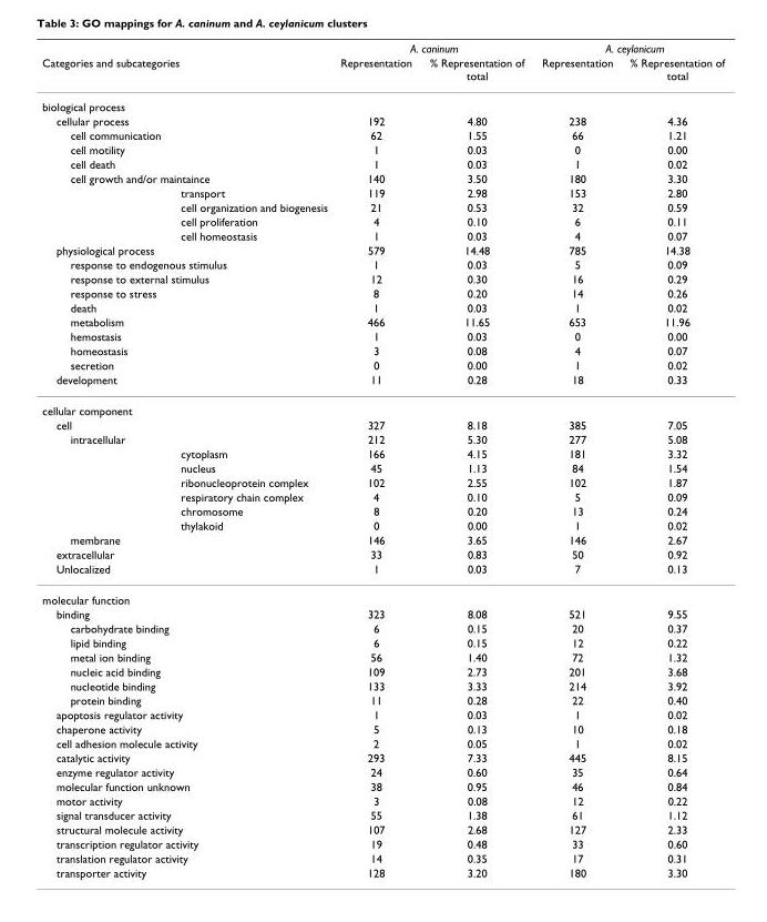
<table><thead><tr><td></td><td></td><td colspan="2">A. caninum</td><td colspan="2">A. ceylanicum</td></tr><tr><td colspan="2">Categories and subcategories</td><td>Representation</td><td>% Representation of total</td><td>Representation</td><td>% Representation of total</td></tr></thead><tbody><tr><td colspan="6">biological process</td></tr><tr><td>cellular process</td><td></td><td>192</td><td>4.80</td><td>238</td><td>4.36</td></tr><tr><td>cell communication</td><td></td><td>62</td><td>1.55</td><td>66</td><td>1.21</td></tr><tr><td>cell motility</td><td></td><td>1</td><td>0.03</td><td>0</td><td>0.00</td></tr><tr><td>cell death</td><td></td><td>1</td><td>0.03</td><td>1</td><td>0.02</td></tr><tr><td colspan="2">cell growth and/or maintaince</td><td>140</td><td>3.50</td><td>180</td><td>3.30</td></tr><tr><td></td><td>transport</td><td>119</td><td>2.98</td><td>153</td><td>2.80</td></tr><tr><td></td><td>cell organization and biogenesis</td><td>21</td><td>0.53</td><td>32</td><td>0.59</td></tr><tr><td></td><td>cell proliferation</td><td>4</td><td>0.10</td><td>6</td><td>0.11</td></tr><tr><td></td><td>cell homeostasis</td><td>1</td><td>0.03</td><td>4</td><td>0.07</td></tr><tr><td>physiological process</td><td></td><td>579</td><td>14.48</td><td>785</td><td>14.38</td></tr><tr><td colspan="2">response to endogenous stimulus</td><td>1</td><td>0.03</td><td>5</td><td>0.09</td></tr><tr><td colspan="2">response to external stimulus</td><td>12</td><td>0.30</td><td>16</td><td>0.29</td></tr><tr><td>response to stress</td><td></td><td>8</td><td>0.20</td><td>14</td><td>0.26</td></tr><tr><td>death</td><td></td><td>1</td><td>0.03</td><td>1</td><td>0.02</td></tr><tr><td>metabolism</td><td></td><td>466</td><td>11.65</td><td>653</td><td>11.96</td></tr><tr><td>hemostasis</td><td></td><td>1</td><td>0.03</td><td>0</td><td>0.00</td></tr><tr><td>homeostasis</td><td></td><td>3</td><td>0.08</td><td>4</td><td>0.07</td></tr><tr><td>secretion</td><td></td><td>0</td><td>0.00</td><td>1</td><td>0.02</td></tr><tr><td>development</td><td></td><td>11</td><td>0.28</td><td>18</td><td>0.33</td></tr><tr><td colspan="6">cellular component</td></tr><tr><td>cell</td><td></td><td>327</td><td>8.18</td><td>385</td><td>7.05</td></tr><tr><td rowspan="7">intracellular</td><td></td><td>212</td><td>5.30</td><td>277</td><td>5.08</td></tr><tr><td>cytoplasm</td><td>166</td><td>4.15</td><td>181</td><td>3.32</td></tr><tr><td>nucleus</td><td>45</td><td>1.13</td><td>84</td><td>1.54</td></tr><tr><td>ribonucleoprotein complex</td><td>102</td><td>2.55</td><td>102</td><td>1.87</td></tr><tr><td>respiratory chain complex</td><td>4</td><td>0.10</td><td>5</td><td>0.09</td></tr><tr><td>chromosome</td><td>8</td><td>0.20</td><td>13</td><td>0.24</td></tr><tr><td>thylakoid</td><td>0</td><td>0.00</td><td>1</td><td>0.02</td></tr><tr><td>membrane</td><td></td><td>146</td><td>3.65</td><td>146</td><td>2.67</td></tr><tr><td>extracellular</td><td></td><td>33</td><td>0.83</td><td>50</td><td>0.92</td></tr><tr><td>Unlocalized</td><td></td><td>1</td><td>0.03</td><td>7</td><td>0.13</td></tr><tr><td colspan="6">molecular function</td></tr><tr><td>binding</td><td></td><td>323</td><td>8.08</td><td>521</td><td>9.55</td></tr><tr><td>carbohydrate binding</td><td></td><td>6</td><td>0.15</td><td>20</td><td>0.37</td></tr><tr><td>lipid binding</td><td></td><td>6</td><td>0.15</td><td>12</td><td>0.22</td></tr><tr><td>metal ion binding</td><td></td><td>56</td><td>1.40</td><td>72</td><td>1.32</td></tr><tr><td>nucleic acid binding</td><td></td><td>109</td><td>2.73</td><td>201</td><td>3.68</td></tr><tr><td>nucleotide binding</td><td></td><td>133</td><td>3.33</td><td>214</td><td>3.92</td></tr><tr><td>protein binding</td><td></td><td>11</td><td>0.28</td><td>22</td><td>0.40</td></tr><tr><td colspan="2">apoptosis regulator activity</td><td>1</td><td>0.03</td><td>1</td><td>0.02</td></tr><tr><td>chaperone activity</td><td></td><td>5</td><td>0.13</td><td>10</td><td>0.18</td></tr><tr><td colspan="2">cell adhesion molecule activity</td><td>2</td><td>0.05</td><td>1</td><td>0.02</td></tr><tr><td>catalytic activity</td><td></td><td>293</td><td>7.33</td><td>445</td><td>8.15</td></tr><tr><td colspan="2">enzyme regulator activity</td><td>24</td><td>0.60</td><td>35</td><td>0.64</td></tr><tr><td colspan="2">molecular function unknown</td><td>38</td><td>0.95</td><td>46</td><td>0.84</td></tr><tr><td>motor activity</td><td></td><td>3</td><td>0.08</td><td>12</td><td>0.22</td></tr><tr><td colspan="2">signal transducer activity</td><td>55</td><td>1.38</td><td>61</td><td>1.12</td></tr><tr><td colspan="2">structural molecule activity</td><td>107</td><td>2.68</td><td>127</td><td>2.33</td></tr><tr><td colspan="2">transcription regulator activity</td><td>19</td><td>0.48</td><td>33</td><td>0.60</td></tr><tr><td colspan="2">translation regulator activity</td><td>14</td><td>0.35</td><td>17</td><td>0.31</td></tr><tr><td>transporter activity</td><td></td><td>128</td><td>3.20</td><td>180</td><td>3.30</td></tr></tbody></table>